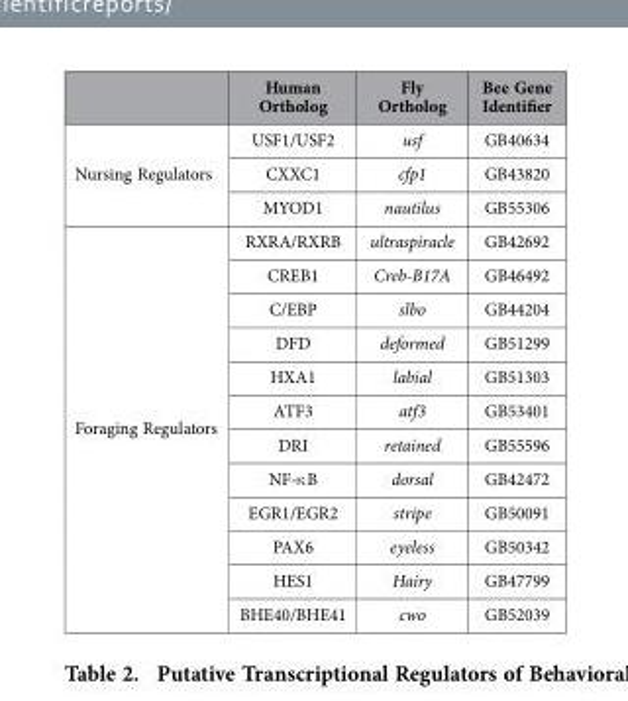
<table><thead><tr><td></td><td>Human Ortholog</td><td>Fly Ortholog</td><td>Bee Gene Identifier</td></tr></thead><tbody><tr><td></td><td>USF1/USF2</td><td>usf</td><td>GB40634</td></tr><tr><td rowspan="2">Nursing Regulators</td><td>CXXC1</td><td>cfp1</td><td>GB43820</td></tr><tr><td>MYOD1</td><td>nautilus</td><td>GB55306</td></tr><tr><td rowspan="12">Foraging Regulators</td><td>RXRA/RXRB</td><td>ultraspiracle</td><td>GB42692</td></tr><tr><td>CREB1</td><td>Creb-B17A</td><td>GB46492</td></tr><tr><td>C/EBP</td><td>slbo</td><td>GB44204</td></tr><tr><td>DFD</td><td>deformed</td><td>GB51299</td></tr><tr><td>HXA1</td><td>labial</td><td>GB51303</td></tr><tr><td>ATF3</td><td>atf3</td><td>GB53401</td></tr><tr><td>DRI</td><td>retained</td><td>GB55596</td></tr><tr><td>NF-κ B</td><td>dorsal</td><td>GB42472</td></tr><tr><td>EGR1/EGR2</td><td>stripe</td><td>GB50091</td></tr><tr><td>PAX6</td><td>eyeless</td><td>GB50342</td></tr><tr><td>HES1</td><td>Hairy</td><td>GB47799</td></tr><tr><td>BHE40/BHE41</td><td>cwo</td><td>GB52039</td></tr></tbody></table>